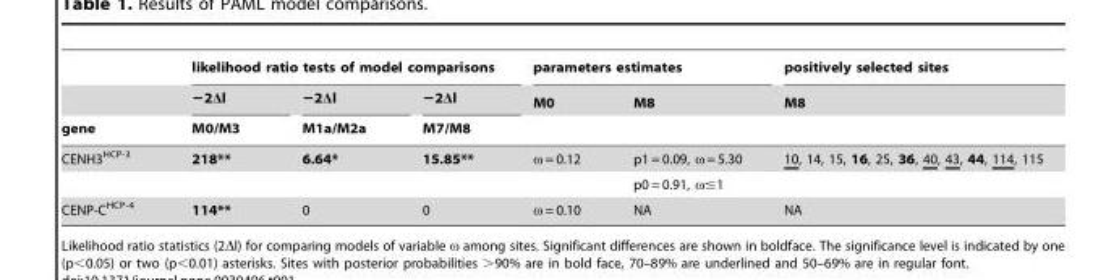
<table><thead><tr><td rowspan="3">gene</td><td colspan="3">likelihood ratio tests of model comparisons</td><td colspan="2">parameters estimates</td><td rowspan="3">positively selected sites M8</td></tr><tr><td rowspan="2">−2Δl M0/M3</td><td rowspan="2">−2Δl M1a/M2a</td><td rowspan="2">−2Δl M7/M8</td><td rowspan="2">M0</td><td rowspan="2">M8</td></tr><tr></tr></thead><tbody><tr><td rowspan="2">CENH3<sup>HCP-3</sup></td><td>218**</td><td>6.64*</td><td>15.85**</td><td>ω = 0.12</td><td>p1 = 0.09, ω = 5.30</td><td>10, 14, 15, 16, 25, 36, 40, 43, 44, 114, 115</td></tr><tr><td></td><td></td><td></td><td></td><td>p0 = 0.91, ω≤1</td><td></td></tr><tr><td>CENP-C<sup>HCP-4</sup></td><td>114**</td><td>0</td><td>0</td><td>ω = 0.10</td><td>NA</td><td>NA</td></tr></tbody></table>